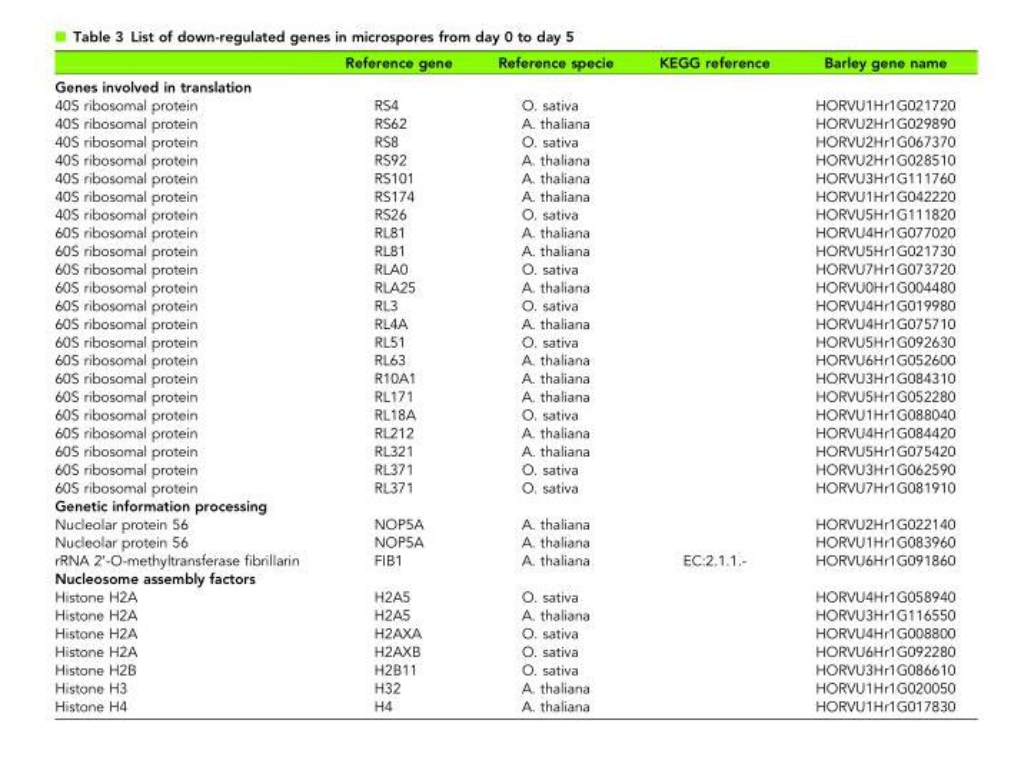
<table><thead><tr><td></td><td>Reference gene</td><td>Reference specie</td><td>KEGG reference</td><td>Barley gene name</td></tr></thead><tbody><tr><td colspan="5">Genes involved in translation</td></tr><tr><td>40S ribosomal protein</td><td>RS4</td><td>O. sativa</td><td></td><td>HORVU1Hr1G021720</td></tr><tr><td>40S ribosomal protein</td><td>RS62</td><td>A. thaliana</td><td></td><td>HORVU2Hr1G029890</td></tr><tr><td>40S ribosomal protein</td><td>RS8</td><td>O. sativa</td><td></td><td>HORVU2Hr1G067370</td></tr><tr><td>40S ribosomal protein</td><td>RS92</td><td>A. thaliana</td><td></td><td>HORVU2Hr1G028510</td></tr><tr><td>40S ribosomal protein</td><td>RS101</td><td>A. thaliana</td><td></td><td>HORVU3Hr1G111760</td></tr><tr><td>40S ribosomal protein</td><td>RS174</td><td>A. thaliana</td><td></td><td>HORVU1Hr1G042220</td></tr><tr><td>40S ribosomal protein</td><td>RS26</td><td>O. sativa</td><td></td><td>HORVU5Hr1G111820</td></tr><tr><td>60S ribosomal protein</td><td>RL81</td><td>A. thaliana</td><td></td><td>HORVU4Hr1G077020</td></tr><tr><td>60S ribosomal protein</td><td>RL81</td><td>A. thaliana</td><td></td><td>HORVU5Hr1G021730</td></tr><tr><td>60S ribosomal protein</td><td>RLA0</td><td>O. sativa</td><td></td><td>HORVU7Hr1G073720</td></tr><tr><td>60S ribosomal protein</td><td>RLA25</td><td>A. thaliana</td><td></td><td>HORVU0Hr1G004480</td></tr><tr><td>60S ribosomal protein</td><td>RL3</td><td>O. sativa</td><td></td><td>HORVU4Hr1G019980</td></tr><tr><td>60S ribosomal protein</td><td>RL4A</td><td>A. thaliana</td><td></td><td>HORVU4Hr1G075710</td></tr><tr><td>60S ribosomal protein</td><td>RL51</td><td>O. sativa</td><td></td><td>HORVU5Hr1G092630</td></tr><tr><td>60S ribosomal protein</td><td>RL63</td><td>A. thaliana</td><td></td><td>HORVU6Hr1G052600</td></tr><tr><td>60S ribosomal protein</td><td>R10A1</td><td>A. thaliana</td><td></td><td>HORVU3Hr1G084310</td></tr><tr><td>60S ribosomal protein</td><td>RL171</td><td>A. thaliana</td><td></td><td>HORVU5Hr1G052280</td></tr><tr><td>60S ribosomal protein</td><td>RL18A</td><td>O. sativa</td><td></td><td>HORVU1Hr1G088040</td></tr><tr><td>60S ribosomal protein</td><td>RL212</td><td>A. thaliana</td><td></td><td>HORVU4Hr1G084420</td></tr><tr><td>60S ribosomal protein</td><td>RL321</td><td>A. thaliana</td><td></td><td>HORVU5Hr1G075420</td></tr><tr><td>60S ribosomal protein</td><td>RL371</td><td>O. sativa</td><td></td><td>HORVU3Hr1G062590</td></tr><tr><td>60S ribosomal protein</td><td>RL371</td><td>O. sativa</td><td></td><td>HORVU7Hr1G081910</td></tr><tr><td colspan="5">Genetic information processing</td></tr><tr><td>Nucleolar protein 56</td><td>NOP5A</td><td>A. thaliana</td><td></td><td>HORVU2Hr1G022140</td></tr><tr><td>Nucleolar protein 56</td><td>NOP5A</td><td>A. thaliana</td><td></td><td>HORVU1Hr1G083960</td></tr><tr><td>rRNA 2’-O-methyltransferase fibrillarin</td><td>FIB1</td><td>A. thaliana</td><td>EC:2.1.1.-</td><td>HORVU6Hr1G091860</td></tr><tr><td colspan="5">Nucleosome assembly factors</td></tr><tr><td>Histone H2A</td><td>H2A5</td><td>O. sativa</td><td></td><td>HORVU4Hr1G058940</td></tr><tr><td>Histone H2A</td><td>H2A5</td><td>A. thaliana</td><td></td><td>HORVU3Hr1G116550</td></tr><tr><td>Histone H2A</td><td>H2AXA</td><td>O. sativa</td><td></td><td>HORVU4Hr1G008800</td></tr><tr><td>Histone H2A</td><td>H2AXB</td><td>O. sativa</td><td></td><td>HORVU6Hr1G092280</td></tr><tr><td>Histone H2B</td><td>H2B11</td><td>O. sativa</td><td></td><td>HORVU3Hr1G086610</td></tr><tr><td>Histone H3</td><td>H32</td><td>A. thaliana</td><td></td><td>HORVU1Hr1G020050</td></tr><tr><td>Histone H4</td><td>H4</td><td>A. thaliana</td><td></td><td>HORVU1Hr1G017830</td></tr></tbody></table>